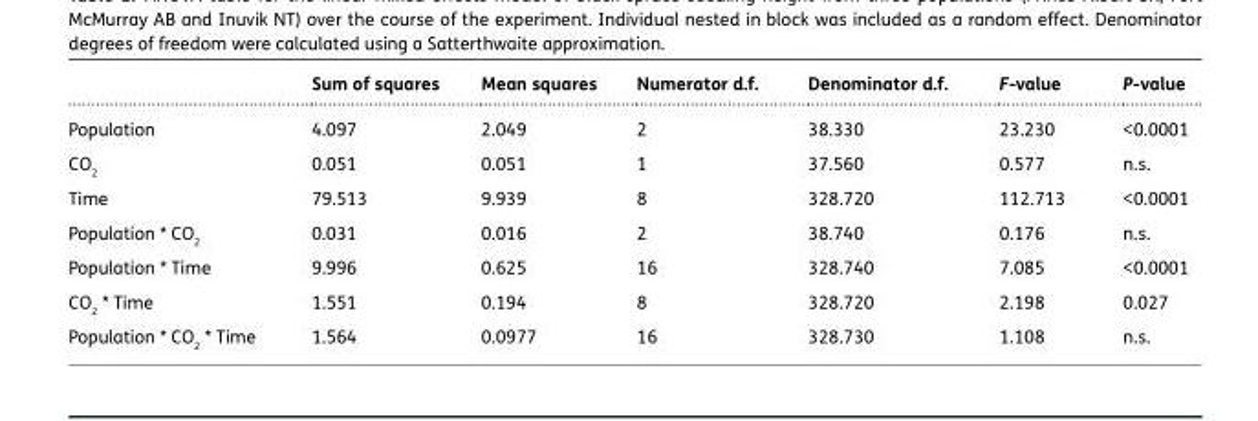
<table><thead><tr><td></td><td>Sum of squares</td><td>Mean squares</td><td>Numerator d.f.</td><td>Denominator d.f.</td><td>F-value</td><td>P-value</td></tr></thead><tbody><tr><td>Population</td><td>4.097</td><td>2.049</td><td>2</td><td>38.330</td><td>23.230</td><td>&lt;0.0001</td></tr><tr><td>CO<sub>2</sub></td><td>0.051</td><td>0.051</td><td>1</td><td>37.560</td><td>0.577</td><td>n.s.</td></tr><tr><td>Time</td><td>79.513</td><td>9.939</td><td>8</td><td>328.720</td><td>112.713</td><td>&lt;0.0001</td></tr><tr><td>Population * CO<sub>2</sub></td><td>0.031</td><td>0.016</td><td>2</td><td>38.740</td><td>0.176</td><td>n.s.</td></tr><tr><td>Population * Time</td><td>9.996</td><td>0.625</td><td>16</td><td>328.740</td><td>7.085</td><td>&lt;0.0001</td></tr><tr><td>CO<sub>2</sub> * Time</td><td>1.551</td><td>0.194</td><td>8</td><td>328.720</td><td>2.198</td><td>0.027</td></tr><tr><td>Population * CO<sub>2</sub> * Time</td><td>1.564</td><td>0.0977</td><td>16</td><td>328.730</td><td>1.108</td><td>n.s.</td></tr></tbody></table>